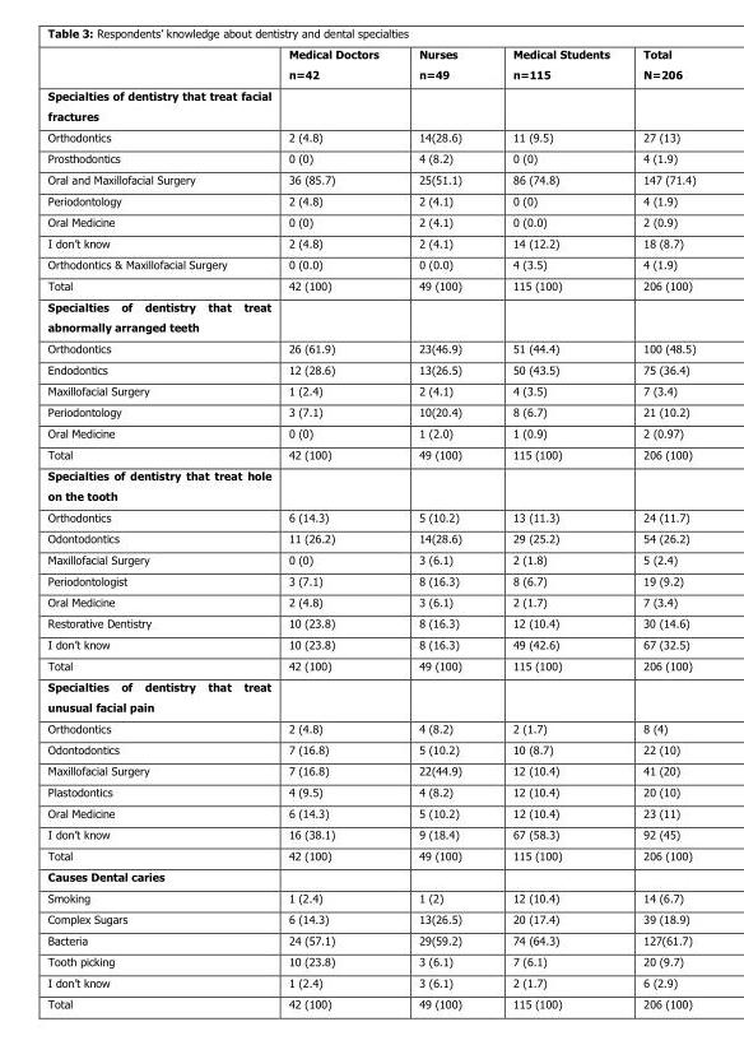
<table><thead><tr><td></td><td>Medical Doctors n=42</td><td>Nurses n=49</td><td>Medical Students n=115</td><td>Total N=206</td></tr></thead><tbody><tr><td colspan="5">Specialties of dentistry that treat facial fractures</td></tr><tr><td>Orthodontics</td><td>2 (4.8)</td><td>14(28.6)</td><td>11 (9.5)</td><td>27 (13)</td></tr><tr><td>Prosthodontics</td><td>0 (0)</td><td>4 (8.2)</td><td>0 (0)</td><td>4 (1.9)</td></tr><tr><td>Oral and Maxillofacial Surgery</td><td>36 (85.7)</td><td>25(51.1)</td><td>86 (74.8)</td><td>147 (71.4)</td></tr><tr><td>Periodontology</td><td>2 (4.8)</td><td>2 (4.1)</td><td>0 (0)</td><td>4 (1.9)</td></tr><tr><td>Oral Medicine</td><td>0 (0)</td><td>2 (4.1)</td><td>0 (0.0)</td><td>2 (0.9)</td></tr><tr><td>I don’t know</td><td>2 (4.8)</td><td>2 (4.1)</td><td>14 (12.2)</td><td>18 (8.7)</td></tr><tr><td>Orthodontics &amp; Maxillofacial Surgery</td><td>0 (0.0)</td><td>0 (0.0)</td><td>4 (3.5)</td><td>4 (1.9)</td></tr><tr><td>Total</td><td>42 (100)</td><td>49 (100)</td><td>115 (100)</td><td>206 (100)</td></tr><tr><td colspan="5">Specialties of dentistry that treat abnormally arranged teeth</td></tr><tr><td>Orthodontics</td><td>26 (61.9)</td><td>23(46.9)</td><td>51 (44.4)</td><td>100 (48.5)</td></tr><tr><td>Endodontics</td><td>12 (28.6)</td><td>13(26.5)</td><td>50 (43.5)</td><td>75 (36.4)</td></tr><tr><td>Maxillofacial Surgery</td><td>1 (2.4)</td><td>2 (4.1)</td><td>4 (3.5)</td><td>7 (3.4)</td></tr><tr><td>Periodontology</td><td>3 (7.1)</td><td>10(20.4)</td><td>8 (6.7)</td><td>21 (10.2)</td></tr><tr><td>Oral Medicine</td><td>0 (0)</td><td>1 (2.0)</td><td>1 (0.9)</td><td>2 (0.97)</td></tr><tr><td>Total</td><td>42 (100)</td><td>49 (100)</td><td>115 (100)</td><td>206 (100)</td></tr><tr><td colspan="5">Specialties of dentistry that treat hole on the tooth</td></tr><tr><td>Orthodontics</td><td>6 (14.3)</td><td>5 (10.2)</td><td>13 (11.3)</td><td>24 (11.7)</td></tr><tr><td>Odontodontics</td><td>11 (26.2)</td><td>14(28.6)</td><td>29 (25.2)</td><td>54 (26.2)</td></tr><tr><td>Maxillofacial Surgery</td><td>0 (0)</td><td>3 (6.1)</td><td>2 (1.8)</td><td>5 (2.4)</td></tr><tr><td>Periodontologist</td><td>3 (7.1)</td><td>8 (16.3)</td><td>8 (6.7)</td><td>19 (9.2)</td></tr><tr><td>Oral Medicine</td><td>2 (4.8)</td><td>3 (6.1)</td><td>2 (1.7)</td><td>7 (3.4)</td></tr><tr><td>Restorative Dentistry</td><td>10 (23.8)</td><td>8 (16.3)</td><td>12 (10.4)</td><td>30 (14.6)</td></tr><tr><td>I don’t know</td><td>10 (23.8)</td><td>8 (16.3)</td><td>49 (42.6)</td><td>67 (32.5)</td></tr><tr><td>Total</td><td>42 (100)</td><td>49 (100)</td><td>115 (100)</td><td>206 (100)</td></tr><tr><td colspan="5">Specialties of dentistry that treat unusual facial pain</td></tr><tr><td>Orthodontics</td><td>2 (4.8)</td><td>4 (8.2)</td><td>2 (1.7)</td><td>8 (4)</td></tr><tr><td>Odontodontics</td><td>7 (16.8)</td><td>5 (10.2)</td><td>10 (8.7)</td><td>22 (10)</td></tr><tr><td>Maxillofacial Surgery</td><td>7 (16.8)</td><td>22(44.9)</td><td>12 (10.4)</td><td>41 (20)</td></tr><tr><td>Plastodontics</td><td>4 (9.5)</td><td>4 (8.2)</td><td>12 (10.4)</td><td>20 (10)</td></tr><tr><td>Oral Medicine</td><td>6 (14.3)</td><td>5 (10.2)</td><td>12 (10.4)</td><td>23 (11)</td></tr><tr><td>I don’t know</td><td>16 (38.1)</td><td>9 (18.4)</td><td>67 (58.3)</td><td>92 (45)</td></tr><tr><td>Total</td><td>42 (100)</td><td>49 (100)</td><td>115 (100)</td><td>206 (100)</td></tr><tr><td colspan="5">Causes Dental caries</td></tr><tr><td>Smoking</td><td>1 (2.4)</td><td>1 (2)</td><td>12 (10.4)</td><td>14 (6.7)</td></tr><tr><td>Complex Sugars</td><td>6 (14.3)</td><td>13(26.5)</td><td>20 (17.4)</td><td>39 (18.9)</td></tr><tr><td>Bacteria</td><td>24 (57.1)</td><td>29(59.2)</td><td>74 (64.3)</td><td>127(61.7)</td></tr><tr><td>Tooth picking</td><td>10 (23.8)</td><td>3 (6.1)</td><td>7 (6.1)</td><td>20 (9.7)</td></tr><tr><td>I don’t know</td><td>1 (2.4)</td><td>3 (6.1)</td><td>2 (1.7)</td><td>6 (2.9)</td></tr><tr><td>Total</td><td>42 (100)</td><td>49 (100)</td><td>115 (100)</td><td>206 (100)</td></tr></tbody></table>